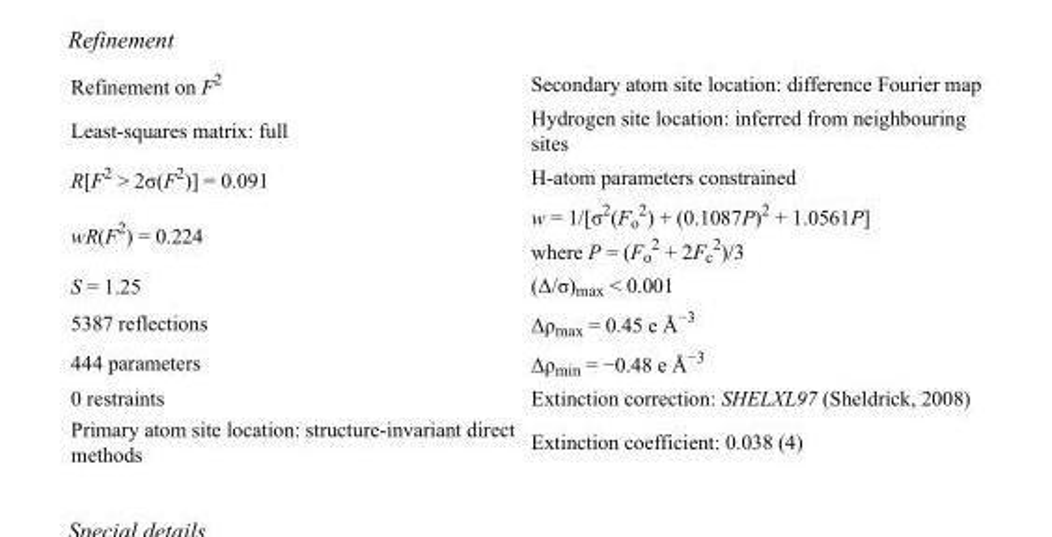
<table><tbody><tr><td>Refinement on F<sup>2</sup></td><td>Secondary atom site location: difference Fourier map</td></tr><tr><td>Least-squares matrix: full</td><td>Hydrogen site location: inferred from neighbouring sites</td></tr><tr><td>R[F<sup>2</sup> &gt; 2σ(F<sup>2</sup>)] = 0.091</td><td>H-atom parameters constrained</td></tr><tr><td>wR(F<sup>2</sup>) = 0.224</td><td>w = 1/[σ<sup>2</sup>(F<sub>o</sub> <sup>2</sup>) + (0.1087P)<sup>2</sup> + 1.0561P] where P = (F<sub>o</sub> <sup>2</sup> + 2F<sub>c</sub> <sup>2</sup>)/3</td></tr><tr><td>S = 1.25</td><td>(Δ/σ)<sub>max</sub> &lt; 0.001</td></tr><tr><td>5387 reflections</td><td>Δρ<sub>max</sub> = 0.45 e Å<sup>−3</sup></td></tr><tr><td>444 parameters</td><td>Δρ<sub>min</sub> = −0.48 e Å<sup>−3</sup></td></tr><tr><td>0 restraints</td><td>Extinction correction: SHELXL97 (Sheldrick, 2008)</td></tr><tr><td>Primary atom site location: structure-invariant direct methods</td><td>Extinction coefficient: 0.038 (4)</td></tr></tbody></table>